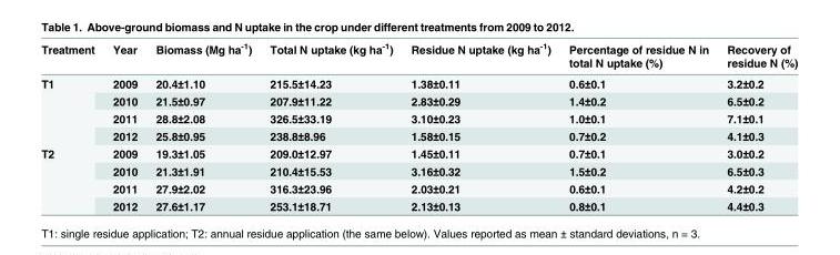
<table><thead><tr><td>Treatment</td><td>Year</td><td>Biomass (Mg ha<sup>-1</sup>)</td><td>Total N uptake (kg ha<sup>-1</sup>)</td><td>Residue N uptake (kg ha<sup>-1</sup>)</td><td>Percentage of residue N in total N uptake (%)</td><td>Recovery of residue N (%)</td></tr></thead><tbody><tr><td rowspan="4">T1</td><td>2009</td><td>20.4±1.10</td><td>215.5±14.23</td><td>1.38±0.11</td><td>0.6±0.1</td><td>3.2±0.2</td></tr><tr><td>2010</td><td>21.5±0.97</td><td>207.9±11.22</td><td>2.83±0.29</td><td>1.4±0.2</td><td>6.5±0.2</td></tr><tr><td>2011</td><td>28.8±2.08</td><td>326.5±33.19</td><td>3.10±0.23</td><td>1.0±0.1</td><td>7.1±0.1</td></tr><tr><td>2012</td><td>25.8±0.95</td><td>238.8±8.96</td><td>1.58±0.15</td><td>0.7±0.2</td><td>4.1±0.3</td></tr><tr><td rowspan="4">T2</td><td>2009</td><td>19.3±1.05</td><td>209.0±12.97</td><td>1.45±0.11</td><td>0.7±0.1</td><td>3.0±0.2</td></tr><tr><td>2010</td><td>21.3±1.91</td><td>210.4±15.53</td><td>3.16±0.32</td><td>1.5±0.2</td><td>6.5±0.3</td></tr><tr><td>2011</td><td>27.9±2.02</td><td>316.3±23.96</td><td>2.03±0.21</td><td>0.6±0.1</td><td>4.2±0.2</td></tr><tr><td>2012</td><td>27.6±1.17</td><td>253.1±18.71</td><td>2.13±0.13</td><td>0.8±0.1</td><td>4.4±0.3</td></tr></tbody></table>